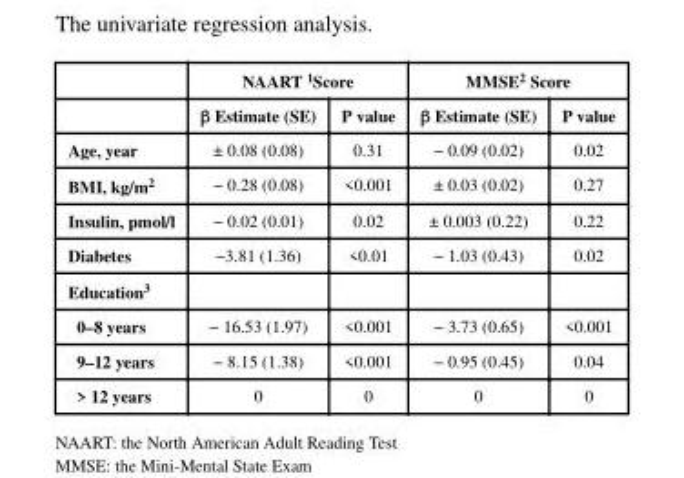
<table><thead><tr><td rowspan="2"></td><td colspan="2">NAART <sup>1</sup>Score</td><td colspan="2">MMSE<sup>2</sup> Score</td></tr><tr><td>β Estimate (SE)</td><td>P value</td><td>β Estimate (SE)</td><td>P value</td></tr></thead><tbody><tr><td>Age, year</td><td>± 0.08 (0.08)</td><td>0.31</td><td>− 0.09 (0.02)</td><td>0.02</td></tr><tr><td>BMI, kg/m<sup>2</sup></td><td>− 0.28 (0.08)</td><td>&lt;0.001</td><td>± 0.03 (0.02)</td><td>0.27</td></tr><tr><td>Insulin, pmol/l</td><td>− 0.02 (0.01)</td><td>0.02</td><td>± 0.003 (0.22)</td><td>0.22</td></tr><tr><td>Diabetes</td><td>−3.81 (1.36)</td><td>&lt;0.01</td><td>− 1.03 (0.43)</td><td>0.02</td></tr><tr><td colspan="5">Education<sup>3</sup></td></tr><tr><td>0–8 years</td><td>− 16.53 (1.97)</td><td>&lt;0.001</td><td>− 3.73 (0.65)</td><td>&lt;0.001</td></tr><tr><td>9–12 years</td><td>− 8.15 (1.38)</td><td>&lt;0.001</td><td>− 0.95 (0.45)</td><td>0.04</td></tr><tr><td>&gt; 12 years</td><td>0</td><td>0</td><td>0</td><td>0</td></tr></tbody></table>